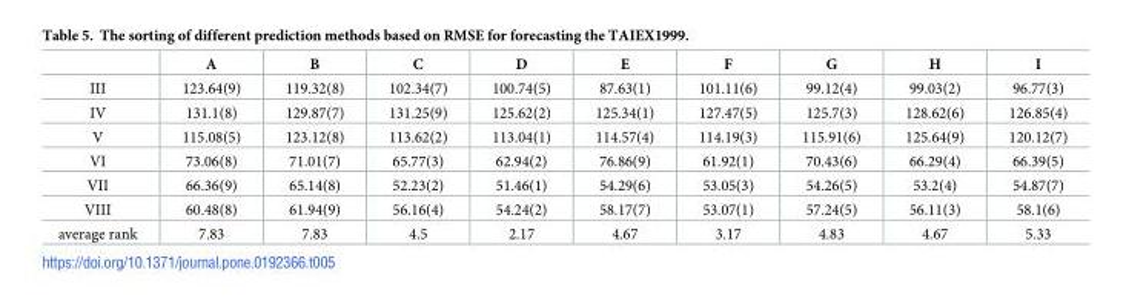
<table><thead><tr><td></td><td>A</td><td>B</td><td>C</td><td>D</td><td>E</td><td>F</td><td>G</td><td>H</td><td>I</td></tr></thead><tbody><tr><td>III</td><td>123.64(9)</td><td>119.32(8)</td><td>102.34(7)</td><td>100.74(5)</td><td>87.63(1)</td><td>101.11(6)</td><td>99.12(4)</td><td>99.03(2)</td><td>96.77(3)</td></tr><tr><td>IV</td><td>131.1(8)</td><td>129.87(7)</td><td>131.25(9)</td><td>125.62(2)</td><td>125.34(1)</td><td>127.47(5)</td><td>125.7(3)</td><td>128.62(6)</td><td>126.85(4)</td></tr><tr><td>V</td><td>115.08(5)</td><td>123.12(8)</td><td>113.62(2)</td><td>113.04(1)</td><td>114.57(4)</td><td>114.19(3)</td><td>115.91(6)</td><td>125.64(9)</td><td>120.12(7)</td></tr><tr><td>VI</td><td>73.06(8)</td><td>71.01(7)</td><td>65.77(3)</td><td>62.94(2)</td><td>76.86(9)</td><td>61.92(1)</td><td>70.43(6)</td><td>66.29(4)</td><td>66.39(5)</td></tr><tr><td>VII</td><td>66.36(9)</td><td>65.14(8)</td><td>52.23(2)</td><td>51.46(1)</td><td>54.29(6)</td><td>53.05(3)</td><td>54.26(5)</td><td>53.2(4)</td><td>54.87(7)</td></tr><tr><td>VIII</td><td>60.48(8)</td><td>61.94(9)</td><td>56.16(4)</td><td>54.24(2)</td><td>58.17(7)</td><td>53.07(1)</td><td>57.24(5)</td><td>56.11(3)</td><td>58.1(6)</td></tr><tr><td>average rank</td><td>7.83</td><td>7.83</td><td>4.5</td><td>2.17</td><td>4.67</td><td>3.17</td><td>4.83</td><td>4.67</td><td>5.33</td></tr></tbody></table>